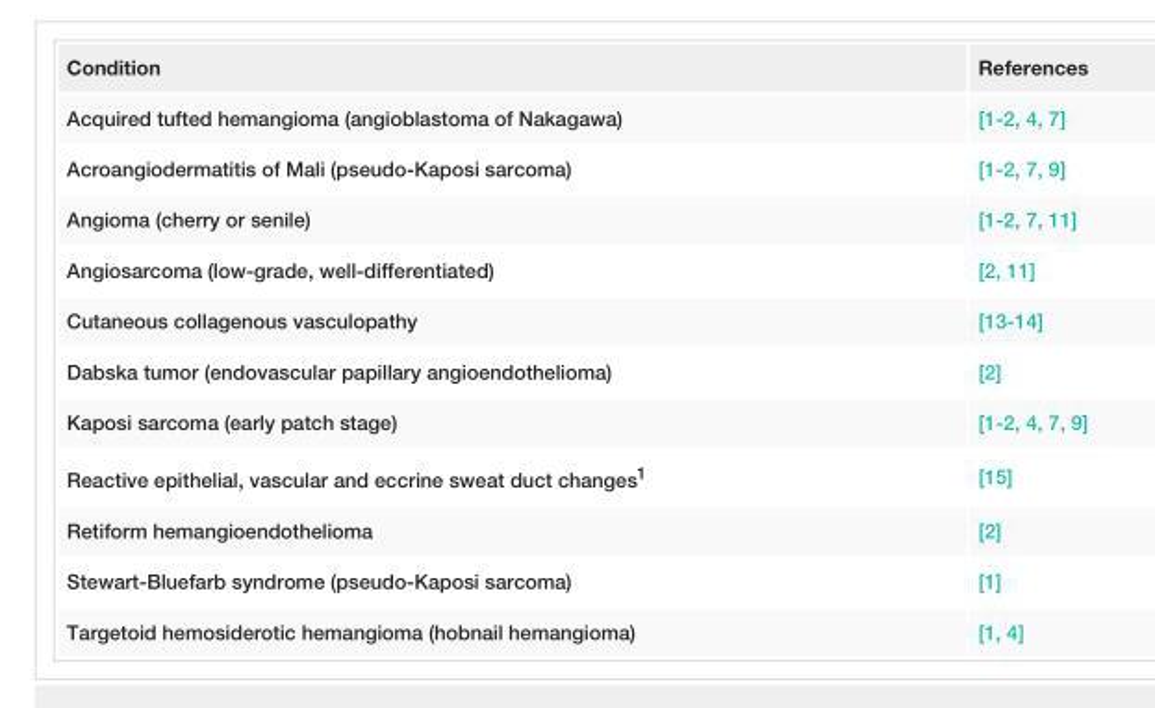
<table><tbody><tr><td>Condition</td><td>References</td></tr><tr><td>Acquired tufted hemangioma (angioblastoma of Nakagawa)</td><td>[1-2, 4, 7]</td></tr><tr><td>Acroangiodermatitis of Mali (pseudo-Kaposi sarcoma)</td><td>[1-2, 7, 9]</td></tr><tr><td>Angioma (cherry or senile)</td><td>[1-2, 7, 11]</td></tr><tr><td>Angiosarcoma (low-grade, well-differentiated)</td><td>[2, 11]</td></tr><tr><td>Cutaneous collagenous vasculopathy</td><td>[13-14]</td></tr><tr><td>Dabska tumor (endovascular papillary angioendothelioma)</td><td>[2]</td></tr><tr><td>Kaposi sarcoma (early patch stage)</td><td>[1-2, 4, 7, 9]</td></tr><tr><td>Reactive epithelial, vascular and eccrine sweat duct changes<sup>1</sup></td><td>[15]</td></tr><tr><td>Retiform hemangioendothelioma</td><td>[2]</td></tr><tr><td>Stewart-Bluefarb syndrome (pseudo-Kaposi sarcoma)</td><td>[1]</td></tr><tr><td>Targetoid hemosiderotic hemangioma (hobnail hemangioma)</td><td>[1, 4]</td></tr></tbody></table>